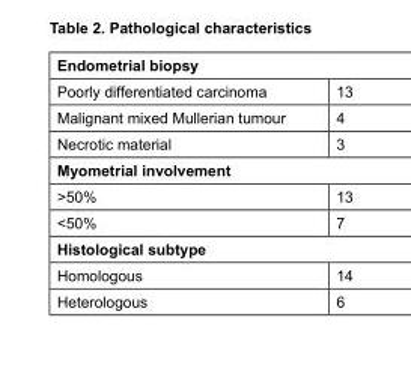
<table><tbody><tr><td colspan="2">Endometrial biopsy</td></tr><tr><td>Poorly differentiated carcinoma</td><td>13</td></tr><tr><td>Malignant mixed Mullerian tumour</td><td>4</td></tr><tr><td>Necrotic material</td><td>3</td></tr><tr><td colspan="2">Myometrial involvement</td></tr><tr><td>&gt;50%</td><td>13</td></tr><tr><td>&lt;50%</td><td>7</td></tr><tr><td colspan="2">Histological subtype</td></tr><tr><td>Homologous</td><td>14</td></tr><tr><td>Heterologous</td><td>6</td></tr></tbody></table>